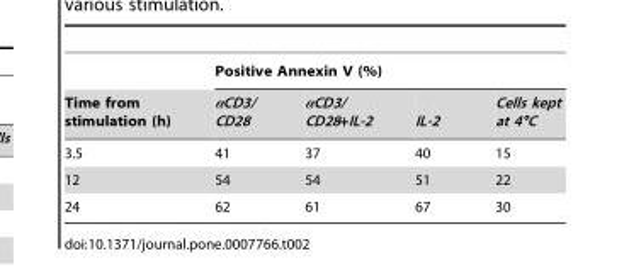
<table><thead><tr><td rowspan="2">Time from stimulation (h)</td><td colspan="4">Positive Annexin V (%)</td></tr><tr><td>αCD3/ CD28</td><td>αCD3/ CD28+IL-2</td><td>IL-2</td><td>Cells kept at 4°C</td></tr></thead><tbody><tr><td>3.5</td><td>41</td><td>37</td><td>40</td><td>15</td></tr><tr><td>12</td><td>54</td><td>54</td><td>51</td><td>22</td></tr><tr><td>24</td><td>62</td><td>61</td><td>67</td><td>30</td></tr></tbody></table>